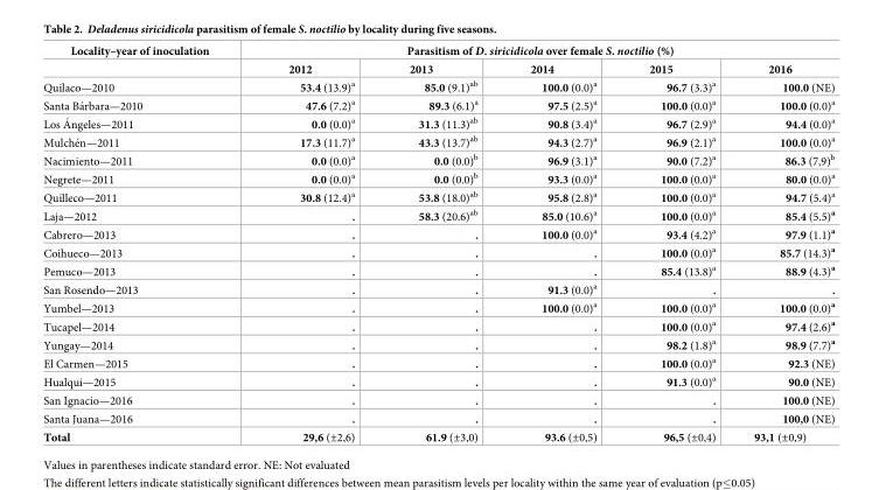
<table><thead><tr><td rowspan="2">Locality–year of inoculation</td><td colspan="5">Parasitism of D. siricidicola over female S. noctilio (%)</td></tr><tr><td>2012</td><td>2013</td><td>2014</td><td>2015</td><td>2016</td></tr></thead><tbody><tr><td>Quilaco—2010</td><td>53.4 (13.9)<sup>a</sup></td><td>85.0 (9.1)<sup>ab</sup></td><td>100.0 (0.0)<sup>a</sup></td><td>96.7 (3.3)<sup>a</sup></td><td>100.0 (NE)</td></tr><tr><td>Santa Ba´rbara—2010</td><td>47.6 (7.2)<sup>a</sup></td><td>89.3 (6.1)<sup>a</sup></td><td>97.5 (2.5)<sup>a</sup></td><td>100.0 (0.0)<sup>a</sup></td><td>100.0 (0.0)a</td></tr><tr><td>Los A´ngeles—2011</td><td>0.0 (0.0)<sup>a</sup></td><td>31.3 (11.3)<sup>ab</sup></td><td>90.8 (3.4)<sup>a</sup></td><td>96.7 (2.9)<sup>a</sup></td><td>94.4 (0.0)<sup>a</sup></td></tr><tr><td>Mulche´n—2011</td><td>17.3 (11.7)<sup>a</sup></td><td>43.3 (13.7)<sup>ab</sup></td><td>94.3 (2.7)<sup>a</sup></td><td>96.9 (2.1)<sup>a</sup></td><td>100.0 (0.0)<sup>a</sup></td></tr><tr><td>Nacimiento—2011</td><td>0.0 (0.0)<sup>a</sup></td><td>0.0 (0.0)<sup>b</sup></td><td>96.9 (3.1)<sup>a</sup></td><td>90.0 (7.2)<sup>a</sup></td><td>86.3 (7,9)<sup>b</sup></td></tr><tr><td>Negrete—2011</td><td>0.0 (0.0)<sup>a</sup></td><td>0.0 (0.0)<sup>b</sup></td><td>93.3 (0.0)<sup>a</sup></td><td>100.0 (0.0)<sup>a</sup></td><td>80.0 (0.0)<sup>a</sup></td></tr><tr><td>Quilleco—2011</td><td>30.8 (12.4)<sup>a</sup></td><td>53.8 (18.0)<sup>ab</sup></td><td>95.8 (2.8)<sup>a</sup></td><td>100.0 (0.0)<sup>a</sup></td><td>94.7 (5.4)<sup>a</sup></td></tr><tr><td>Laja—2012</td><td>.</td><td>58.3 (20.6)<sup>ab</sup></td><td>85.0 (10.6)<sup>a</sup></td><td>100.0 (0.0)<sup>a</sup></td><td>85.4 (5.5)<sup>a</sup></td></tr><tr><td>Cabrero—2013</td><td>.</td><td>.</td><td>100.0 (0.0)<sup>a</sup></td><td>93.4 (4.2)<sup>a</sup></td><td>97.9 (1.1)<sup>a</sup></td></tr><tr><td>Coihueco—2013</td><td>.</td><td>.</td><td>.</td><td>100.0 (0.0)<sup>a</sup></td><td>85.7 (14.3)<sup>a</sup></td></tr><tr><td>Pemuco—2013</td><td>.</td><td>.</td><td>.</td><td>85.4 (13.8)<sup>a</sup></td><td>88.9 (4.3)<sup>a</sup></td></tr><tr><td>San Rosendo—2013</td><td>.</td><td>.</td><td>91.3 (0.0)<sup>a</sup></td><td>.</td><td>.</td></tr><tr><td>Yumbel—2013</td><td>.</td><td>.</td><td>100.0 (0.0)<sup>a</sup></td><td>100.0 (0.0)<sup>a</sup></td><td>100.0 (0.0)<sup>a</sup></td></tr><tr><td>Tucapel—2014</td><td>.</td><td>.</td><td>.</td><td>100.0 (0.0)<sup>a</sup></td><td>97.4 (2.6)<sup>a</sup></td></tr><tr><td>Yungay—2014</td><td>.</td><td>.</td><td>.</td><td>98.2 (1.8)<sup>a</sup></td><td>98.9 (7.7)<sup>a</sup></td></tr><tr><td>El Carmen—2015</td><td>.</td><td>.</td><td>.</td><td>100.0 (0.0)<sup>a</sup></td><td>92.3 (NE)</td></tr><tr><td>Hualqui—2015</td><td>.</td><td>.</td><td>.</td><td>91.3 (0.0)<sup>a</sup></td><td>90.0 (NE)</td></tr><tr><td>San Ignacio—2016</td><td>.</td><td>.</td><td>.</td><td>.</td><td>100.0 (NE)</td></tr><tr><td>Santa Juana—2016</td><td>.</td><td>.</td><td>.</td><td>.</td><td>100,0 (NE)</td></tr><tr><td>Total</td><td>29,6 (±2,6)</td><td>61.9 (±3,0)</td><td>93.6 (±0,5)</td><td>96,5 (±0,4)</td><td>93,1 (±0,9)</td></tr></tbody></table>